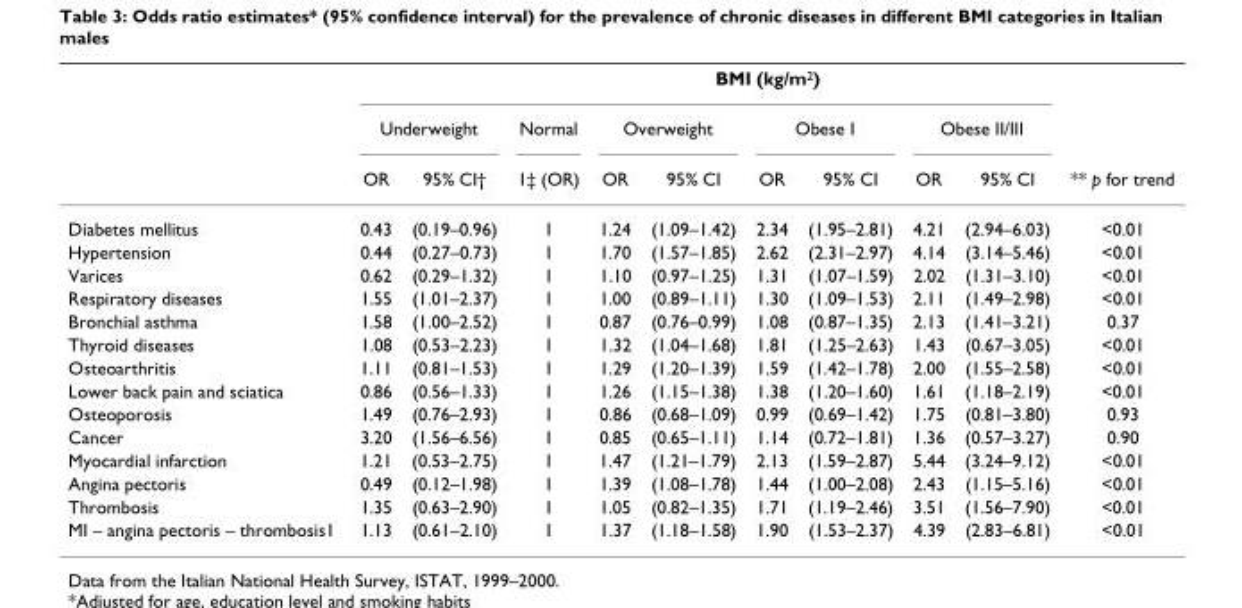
<table><thead><tr><td rowspan="3"></td><td colspan="10">BMI (kg/m<sup>2</sup>)</td></tr><tr><td colspan="2">Underweight</td><td rowspan="2">Normal 1‡ (OR)</td><td colspan="2">Overweight</td><td colspan="2">Obese I</td><td colspan="2">Obese II/III</td><td rowspan="2">** p for trend</td></tr><tr><td>OR</td><td>95% CI†</td><td>OR</td><td>95% CI</td><td>OR</td><td>95% CI</td><td>OR</td><td>95% CI</td></tr></thead><tbody><tr><td>Diabetes mellitus</td><td>0.43</td><td>(0.19–0.96)</td><td>1</td><td>1.24</td><td>(1.09–1.42)</td><td>2.34</td><td>(1.95–2.81)</td><td>4.21</td><td>(2.94–6.03)</td><td>&lt;0.01</td></tr><tr><td>Hypertension</td><td>0.44</td><td>(0.27–0.73)</td><td>1</td><td>1.70</td><td>(1.57–1.85)</td><td>2.62</td><td>(2.31–2.97)</td><td>4.14</td><td>(3.14–5.46)</td><td>&lt;0.01</td></tr><tr><td>Varices</td><td>0.62</td><td>(0.29–1.32)</td><td>1</td><td>1.10</td><td>(0.97–1.25)</td><td>1.31</td><td>(1.07–1.59)</td><td>2.02</td><td>(1.31–3.10)</td><td>&lt;0.01</td></tr><tr><td>Respiratory diseases</td><td>1.55</td><td>(1.01–2.37)</td><td>1</td><td>1.00</td><td>(0.89–1.11)</td><td>1.30</td><td>(1.09–1.53)</td><td>2.11</td><td>(1.49–2.98)</td><td>&lt;0.01</td></tr><tr><td>Bronchial asthma</td><td>1.58</td><td>(1.00–2.52)</td><td>1</td><td>0.87</td><td>(0.76–0.99)</td><td>1.08</td><td>(0.87–1.35)</td><td>2.13</td><td>(1.41–3.21)</td><td>0.37</td></tr><tr><td>Thyroid diseases</td><td>1.08</td><td>(0.53–2.23)</td><td>1</td><td>1.32</td><td>(1.04–1.68)</td><td>1.81</td><td>(1.25–2.63)</td><td>1.43</td><td>(0.67–3.05)</td><td>&lt;0.01</td></tr><tr><td>Osteoarthritis</td><td>1.11</td><td>(0.81–1.53)</td><td>1</td><td>1.29</td><td>(1.20–1.39)</td><td>1.59</td><td>(1.42–1.78)</td><td>2.00</td><td>(1.55–2.58)</td><td>&lt;0.01</td></tr><tr><td>Lower back pain and sciatica</td><td>0.86</td><td>(0.56–1.33)</td><td>1</td><td>1.26</td><td>(1.15–1.38)</td><td>1.38</td><td>(1.20–1.60)</td><td>1.61</td><td>(1.18–2.19)</td><td>&lt;0.01</td></tr><tr><td>Osteoporosis</td><td>1.49</td><td>(0.76–2.93)</td><td>1</td><td>0.86</td><td>(0.68–1.09)</td><td>0.99</td><td>(0.69–1.42)</td><td>1.75</td><td>(0.81–3.80)</td><td>0.93</td></tr><tr><td>Cancer</td><td>3.20</td><td>(1.56–6.56)</td><td>1</td><td>0.85</td><td>(0.65–1.11)</td><td>1.14</td><td>(0.72–1.81)</td><td>1.36</td><td>(0.57–3.27)</td><td>0.90</td></tr><tr><td>Myocardial infarction</td><td>1.21</td><td>(0.53–2.75)</td><td>1</td><td>1.47</td><td>(1.21–1.79)</td><td>2.13</td><td>(1.59–2.87)</td><td>5.44</td><td>(3.24–9.12)</td><td>&lt;0.01</td></tr><tr><td>Angina pectoris</td><td>0.49</td><td>(0.12–1.98)</td><td>1</td><td>1.39</td><td>(1.08–1.78)</td><td>1.44</td><td>(1.00–2.08)</td><td>2.43</td><td>(1.15–5.16)</td><td>&lt;0.01</td></tr><tr><td>Thrombosis</td><td>1.35</td><td>(0.63–2.90)</td><td>1</td><td>1.05</td><td>(0.82–1.35)</td><td>1.71</td><td>(1.19–2.46)</td><td>3.51</td><td>(1.56–7.90)</td><td>&lt;0.01</td></tr><tr><td>MI – angina pectoris – thrombosis1</td><td>1.13</td><td>(0.61–2.10)</td><td>1</td><td>1.37</td><td>(1.18–1.58)</td><td>1.90</td><td>(1.53–2.37)</td><td>4.39</td><td>(2.83–6.81)</td><td>&lt;0.01</td></tr></tbody></table>